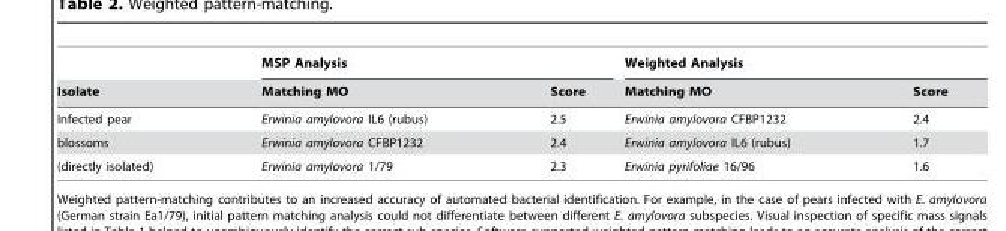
<table><thead><tr><td rowspan="2">Isolate</td><td colspan="2">MSP Analysis</td><td colspan="2">Weighted Analysis</td></tr><tr><td>Matching MO</td><td>Score</td><td>Matching MO</td><td>Score</td></tr></thead><tbody><tr><td>Infected pear</td><td>Erwinia amylovora IL6 (rubus)</td><td>2.5</td><td>Erwinia amylovora CFBP1232</td><td>2.4</td></tr><tr><td>blossoms</td><td>Erwinia amylovora CFBP1232</td><td>2.4</td><td>Erwinia amylovora IL6 (rubus)</td><td>1.7</td></tr><tr><td>(directly isolated)</td><td>Erwinia amylovora 1/79</td><td>2.3</td><td>Erwinia pyrifoliae 16/96</td><td>1.6</td></tr></tbody></table>